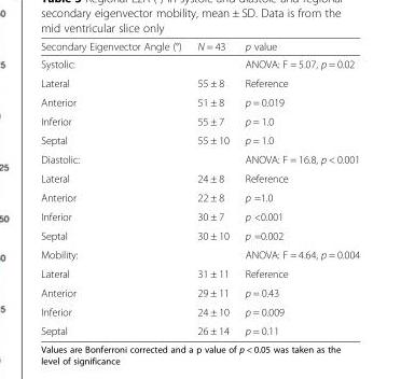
<table><thead><tr><td>Secondary Eigenvector Angle (°)</td><td>N = 43</td><td>p value</td></tr></thead><tbody><tr><td>Systolic:</td><td></td><td>ANOVA: F = 5.07, p = 0.02</td></tr><tr><td>Lateral</td><td>55 ± 8</td><td>Reference</td></tr><tr><td>Anterior</td><td>51 ± 8</td><td>p = 0.019</td></tr><tr><td>Inferior</td><td>55 ± 7</td><td>p = 1.0</td></tr><tr><td>Septal</td><td>55 ± 10</td><td>p = 1.0</td></tr><tr><td>Diastolic:</td><td></td><td>ANOVA: F = 16.8, p &lt; 0.001</td></tr><tr><td>Lateral</td><td>24 ± 8</td><td>Reference</td></tr><tr><td>Anterior</td><td>22 ± 8</td><td>p =1.0</td></tr><tr><td>Inferior</td><td>30 ± 7</td><td>p &lt;0.001</td></tr><tr><td>Septal</td><td>30 ± 10</td><td>p =0.002</td></tr><tr><td>Mobility:</td><td></td><td>ANOVA: F = 4.64, p = 0.004</td></tr><tr><td>Lateral</td><td>31 ± 11</td><td>Reference</td></tr><tr><td>Anterior</td><td>29 ± 11</td><td>p = 0.43</td></tr><tr><td>Inferior</td><td>24 ± 10</td><td>p = 0.009</td></tr><tr><td>Septal</td><td>26 ± 14</td><td>p = 0.11</td></tr></tbody></table>